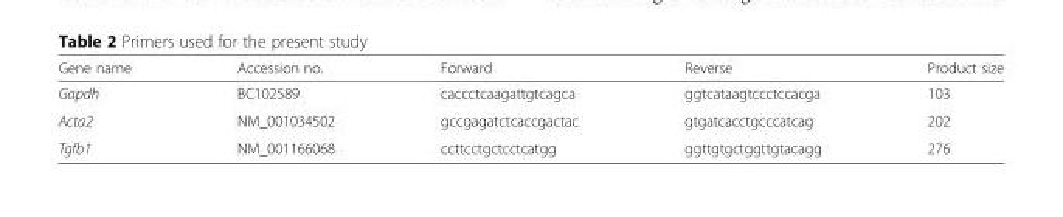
<table><thead><tr><td>Gene name</td><td>Accession no.</td><td>Forward</td><td>Reverse</td><td>Product size</td></tr></thead><tbody><tr><td>Gapdh</td><td>BC102589</td><td>caccctcaagattgtcagca</td><td>ggtcataagtccctccacga</td><td>103</td></tr><tr><td>Acta2</td><td>NM_001034502</td><td>gccgagatctcaccgactac</td><td>gtgatcacctgcccatcag</td><td>202</td></tr><tr><td>Tgfb1</td><td>NM_001166068</td><td>ccttcctgctcctcatgg</td><td>ggttgtgctggttgtacagg</td><td>276</td></tr></tbody></table>